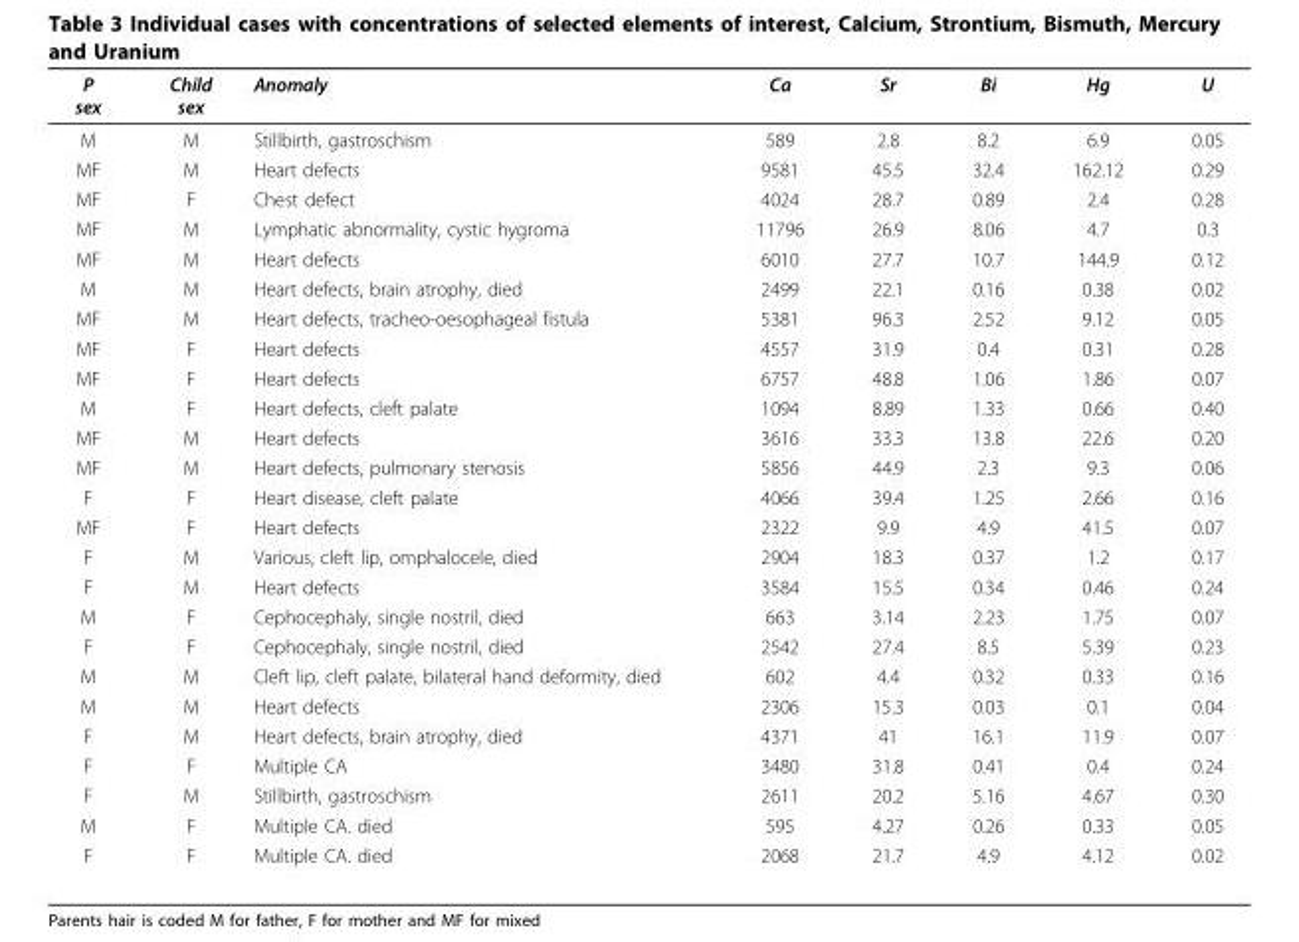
<table><thead><tr><td>P sex</td><td>Child sex</td><td>Anomaly</td><td>Ca</td><td>Sr</td><td>Bi</td><td>Hg</td><td>U</td></tr></thead><tbody><tr><td>M</td><td>M</td><td>Stillbirth, gastroschism</td><td>589</td><td>2.8</td><td>8.2</td><td>6.9</td><td>0.05</td></tr><tr><td>MF</td><td>M</td><td>Heart defects</td><td>9581</td><td>45.5</td><td>32.4</td><td>162.12</td><td>0.29</td></tr><tr><td>MF</td><td>F</td><td>Chest defect</td><td>4024</td><td>28.7</td><td>0.89</td><td>2.4</td><td>0.28</td></tr><tr><td>MF</td><td>M</td><td>Lymphatic abnormality, cystic hygroma</td><td>11796</td><td>26.9</td><td>8.06</td><td>4.7</td><td>0.3</td></tr><tr><td>MF</td><td>M</td><td>Heart defects</td><td>6010</td><td>27.7</td><td>10.7</td><td>144.9</td><td>0.12</td></tr><tr><td>M</td><td>M</td><td>Heart defects, brain atrophy, died</td><td>2499</td><td>22.1</td><td>0.16</td><td>0.38</td><td>0.02</td></tr><tr><td>MF</td><td>M</td><td>Heart defects, tracheo-oesophageal fistula</td><td>5381</td><td>96.3</td><td>2.52</td><td>9.12</td><td>0.05</td></tr><tr><td>MF</td><td>F</td><td>Heart defects</td><td>4557</td><td>31.9</td><td>0.4</td><td>0.31</td><td>0.28</td></tr><tr><td>MF</td><td>F</td><td>Heart defects</td><td>6757</td><td>48.8</td><td>1.06</td><td>1.86</td><td>0.07</td></tr><tr><td>M</td><td>F</td><td>Heart defects, cleft palate</td><td>1094</td><td>8.89</td><td>1.33</td><td>0.66</td><td>0.40</td></tr><tr><td>MF</td><td>M</td><td>Heart defects</td><td>3616</td><td>33.3</td><td>13.8</td><td>22.6</td><td>0.20</td></tr><tr><td>MF</td><td>M</td><td>Heart defects, pulmonary stenosis</td><td>5856</td><td>44.9</td><td>2.3</td><td>9.3</td><td>0.06</td></tr><tr><td>F</td><td>F</td><td>Heart disease, cleft palate</td><td>4066</td><td>39.4</td><td>1.25</td><td>2.66</td><td>0.16</td></tr><tr><td>MF</td><td>F</td><td>Heart defects</td><td>2322</td><td>9.9</td><td>4.9</td><td>41.5</td><td>0.07</td></tr><tr><td>F</td><td>M</td><td>Various, cleft lip, omphalocele, died</td><td>2904</td><td>18.3</td><td>0.37</td><td>1.2</td><td>0.17</td></tr><tr><td>F</td><td>M</td><td>Heart defects</td><td>3584</td><td>15.5</td><td>0.34</td><td>0.46</td><td>0.24</td></tr><tr><td>M</td><td>F</td><td>Cephocephaly, single nostril, died</td><td>663</td><td>3.14</td><td>2.23</td><td>1.75</td><td>0.07</td></tr><tr><td>F</td><td>F</td><td>Cephocephaly, single nostril, died</td><td>2542</td><td>27.4</td><td>8.5</td><td>5.39</td><td>0.23</td></tr><tr><td>M</td><td>M</td><td>Cleft lip, cleft palate, bilateral hand deformity, died</td><td>602</td><td>4.4</td><td>0.32</td><td>0.33</td><td>0.16</td></tr><tr><td>M</td><td>M</td><td>Heart defects</td><td>2306</td><td>15.3</td><td>0.03</td><td>0.1</td><td>0.04</td></tr><tr><td>F</td><td>M</td><td>Heart defects, brain atrophy, died</td><td>4371</td><td>41</td><td>16.1</td><td>11.9</td><td>0.07</td></tr><tr><td>F</td><td>F</td><td>Multiple CA</td><td>3480</td><td>31.8</td><td>0.41</td><td>0.4</td><td>0.24</td></tr><tr><td>F</td><td>M</td><td>Stillbirth, gastroschism</td><td>2611</td><td>20.2</td><td>5.16</td><td>4.67</td><td>0.30</td></tr><tr><td>M</td><td>F</td><td>Multiple CA. died</td><td>595</td><td>4.27</td><td>0.26</td><td>0.33</td><td>0.05</td></tr><tr><td>F</td><td>F</td><td>Multiple CA. died</td><td>2068</td><td>21.7</td><td>4.9</td><td>4.12</td><td>0.02</td></tr></tbody></table>